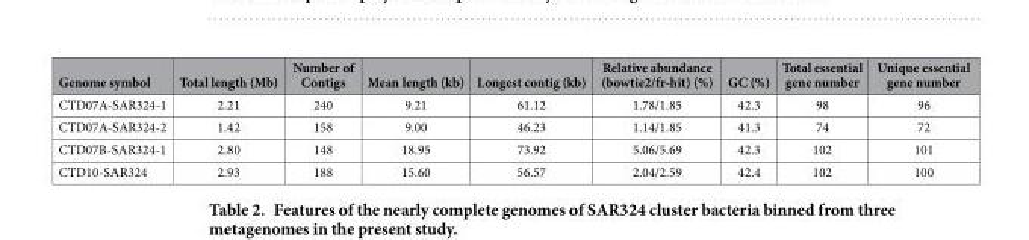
<table><thead><tr><td>Genome symbol</td><td>Total length (Mb)</td><td>Number of Contigs</td><td>Mean length (kb)</td><td>Longest contig (kb)</td><td>Relative abundance (bowtie2/fr-hit) (%)</td><td>GC (%)</td><td>Total essential gene number</td><td>Unique essential gene number</td></tr></thead><tbody><tr><td>CTD07A-SAR324-1</td><td>2.21</td><td>240</td><td>9.21</td><td>61.12</td><td>1.78/1.85</td><td>42.3</td><td>98</td><td>96</td></tr><tr><td>CTD07A-SAR324-2</td><td>1.42</td><td>158</td><td>9.00</td><td>46.23</td><td>1.14/1.85</td><td>41.3</td><td>74</td><td>72</td></tr><tr><td>CTD07B-SAR324-1</td><td>2.80</td><td>148</td><td>18.95</td><td>73.92</td><td>5.06/5.69</td><td>42.3</td><td>102</td><td>101</td></tr><tr><td>CTD10-SAR324</td><td>2.93</td><td>188</td><td>15.60</td><td>56.57</td><td>2.04/2.59</td><td>42.4</td><td>102</td><td>100</td></tr></tbody></table>